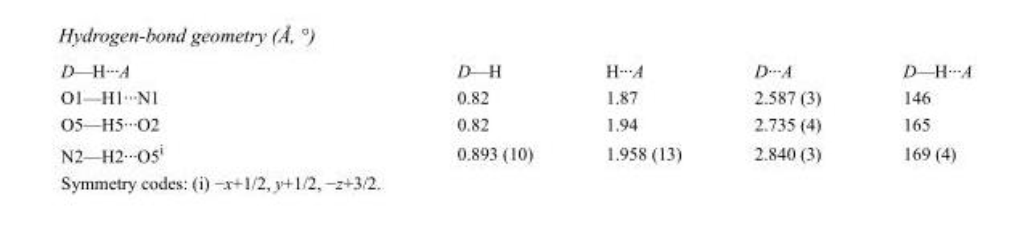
<table><tbody><tr><td>D—H···A</td><td>D—H</td><td>H···A</td><td>D···A</td><td>D—H···A</td></tr><tr><td>O1—H1···N1</td><td>0.82</td><td>1.87</td><td>2.587 (3)</td><td>146</td></tr><tr><td>O5—H5···O2</td><td>0.82</td><td>1.94</td><td>2.735 (4)</td><td>165</td></tr><tr><td>N2—H2···O5<sup>i</sup></td><td>0.893 (10)</td><td>1.958 (13)</td><td>2.840 (3)</td><td>169 (4)</td></tr></tbody></table>